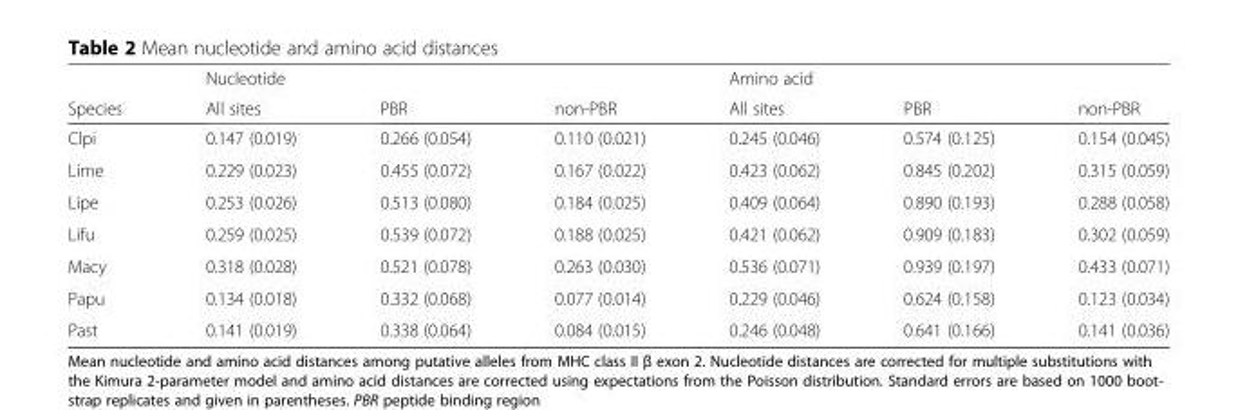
<table><thead><tr><td rowspan="2">Species</td><td rowspan="2">Nucleotide All sites</td><td rowspan="2">PBR</td><td rowspan="2">non-PBR</td><td rowspan="2">Amino acid All sites</td><td rowspan="2">PBR</td><td rowspan="2">non-PBR</td></tr><tr></tr></thead><tbody><tr><td>Clpi</td><td>0.147 (0.019)</td><td>0.266 (0.054)</td><td>0.110 (0.021)</td><td>0.245 (0.046)</td><td>0.574 (0.125)</td><td>0.154 (0.045)</td></tr><tr><td>Lime</td><td>0.229 (0.023)</td><td>0.455 (0.072)</td><td>0.167 (0.022)</td><td>0.423 (0.062)</td><td>0.845 (0.202)</td><td>0.315 (0.059)</td></tr><tr><td>Lipe</td><td>0.253 (0.026)</td><td>0.513 (0.080)</td><td>0.184 (0.025)</td><td>0.409 (0.064)</td><td>0.890 (0.193)</td><td>0.288 (0.058)</td></tr><tr><td>Lifu</td><td>0.259 (0.025)</td><td>0.539 (0.072)</td><td>0.188 (0.025)</td><td>0.421 (0.062)</td><td>0.909 (0.183)</td><td>0.302 (0.059)</td></tr><tr><td>Macy</td><td>0.318 (0.028)</td><td>0.521 (0.078)</td><td>0.263 (0.030)</td><td>0.536 (0.071)</td><td>0.939 (0.197)</td><td>0.433 (0.071)</td></tr><tr><td>Papu</td><td>0.134 (0.018)</td><td>0.332 (0.068)</td><td>0.077 (0.014)</td><td>0.229 (0.046)</td><td>0.624 (0.158)</td><td>0.123 (0.034)</td></tr><tr><td>Past</td><td>0.141 (0.019)</td><td>0.338 (0.064)</td><td>0.084 (0.015)</td><td>0.246 (0.048)</td><td>0.641 (0.166)</td><td>0.141 (0.036)</td></tr></tbody></table>